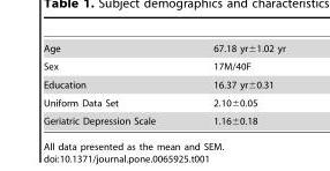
<table><tbody><tr><td>Age</td><td>67.18 yr±1.02 yr</td></tr><tr><td>Sex</td><td>17M/40F</td></tr><tr><td>Education</td><td>16.37 yr±0.31</td></tr><tr><td>Uniform Data Set</td><td>2.10±0.05</td></tr><tr><td>Geriatric Depression Scale</td><td>1.16±0.18</td></tr></tbody></table>